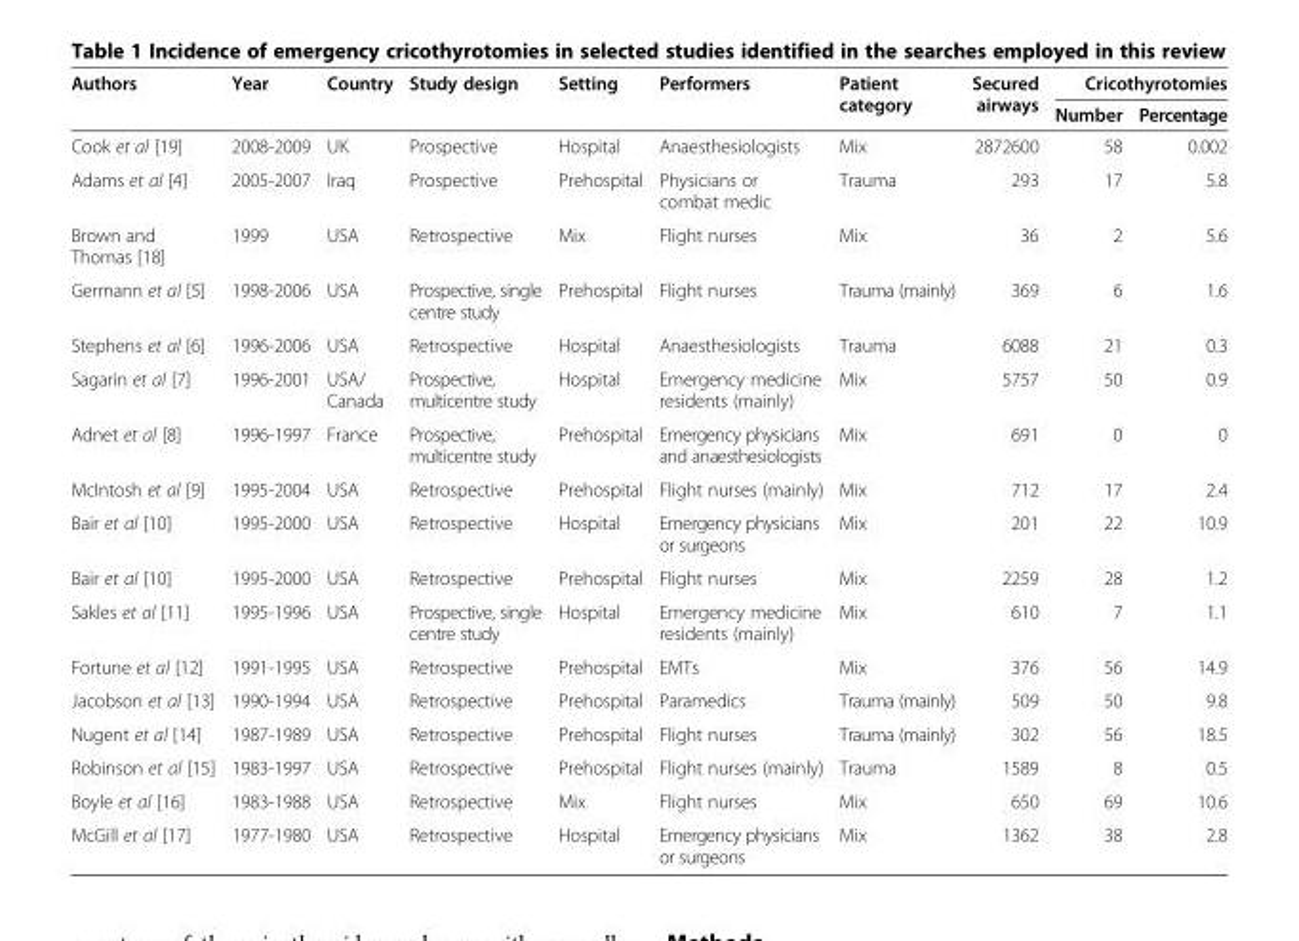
<table><thead><tr><td rowspan="2">Authors</td><td rowspan="2">Year</td><td rowspan="2">Country</td><td rowspan="2">Study design</td><td rowspan="2">Setting</td><td rowspan="2">Performers</td><td rowspan="2">Patient category</td><td rowspan="2">Secured airways</td><td colspan="2">Cricothyrotomies</td></tr><tr><td>Number</td><td>Percentage</td></tr></thead><tbody><tr><td>Cook et al [19]</td><td>2008-2009</td><td>UK</td><td>Prospective</td><td>Hospital</td><td>Anaesthesiologists</td><td>Mix</td><td>2872600</td><td>58</td><td>0.002</td></tr><tr><td>Adams et al [4]</td><td>2005-2007</td><td>Iraq</td><td>Prospective</td><td>Prehospital</td><td>Physicians or combat medic</td><td>Trauma</td><td>293</td><td>17</td><td>5.8</td></tr><tr><td>Brown and Thomas [18]</td><td>1999</td><td>USA</td><td>Retrospective</td><td>Mix</td><td>Flight nurses</td><td>Mix</td><td>36</td><td>2</td><td>5.6</td></tr><tr><td>Germann et al [5]</td><td>1998-2006</td><td>USA</td><td>Prospective, single centre study</td><td>Prehospital</td><td>Flight nurses</td><td>Trauma (mainly)</td><td>369</td><td>6</td><td>1.6</td></tr><tr><td>Stephens et al [6]</td><td>1996-2006</td><td>USA</td><td>Retrospective</td><td>Hospital</td><td>Anaesthesiologists</td><td>Trauma</td><td>6088</td><td>21</td><td>0.3</td></tr><tr><td>Sagarin et al [7]</td><td>1996-2001</td><td>USA/ Canada</td><td>Prospective, multicentre study</td><td>Hospital</td><td>Emergency medicine residents (mainly)</td><td>Mix</td><td>5757</td><td>50</td><td>0.9</td></tr><tr><td>Adnet et al [8]</td><td>1996-1997</td><td>France</td><td>Prospective, multicentre study</td><td>Prehospital</td><td>Emergency physicians and anaesthesiologists</td><td>Mix</td><td>691</td><td>0</td><td>0</td></tr><tr><td>McIntosh et al [9]</td><td>1995-2004</td><td>USA</td><td>Retrospective</td><td>Prehospital</td><td>Flight nurses (mainly)</td><td>Mix</td><td>712</td><td>17</td><td>2.4</td></tr><tr><td>Bair et al [10]</td><td>1995-2000</td><td>USA</td><td>Retrospective</td><td>Hospital</td><td>Emergency physicians or surgeons</td><td>Mix</td><td>201</td><td>22</td><td>10.9</td></tr><tr><td>Bair et al [10]</td><td>1995-2000</td><td>USA</td><td>Retrospective</td><td>Prehospital</td><td>Flight nurses</td><td>Mix</td><td>2259</td><td>28</td><td>1.2</td></tr><tr><td>Sakles et al [11]</td><td>1995-1996</td><td>USA</td><td>Prospective, single centre study</td><td>Hospital</td><td>Emergency medicine residents (mainly)</td><td>Mix</td><td>610</td><td>7</td><td>1.1</td></tr><tr><td>Fortune et al [12]</td><td>1991-1995</td><td>USA</td><td>Retrospective</td><td>Prehospital</td><td>EMTs</td><td>Mix</td><td>376</td><td>56</td><td>14.9</td></tr><tr><td>Jacobson et al [13]</td><td>1990-1994</td><td>USA</td><td>Retrospective</td><td>Prehospital</td><td>Paramedics</td><td>Trauma (mainly)</td><td>509</td><td>50</td><td>9.8</td></tr><tr><td>Nugent et al [14]</td><td>1987-1989</td><td>USA</td><td>Retrospective</td><td>Prehospital</td><td>Flight nurses</td><td>Trauma (mainly)</td><td>302</td><td>56</td><td>18.5</td></tr><tr><td>Robinson et al [15]</td><td>1983-1997</td><td>USA</td><td>Retrospective</td><td>Prehospital</td><td>Flight nurses (mainly)</td><td>Trauma</td><td>1589</td><td>8</td><td>0.5</td></tr><tr><td>Boyle et al [16]</td><td>1983-1988</td><td>USA</td><td>Retrospective</td><td>Mix</td><td>Flight nurses</td><td>Mix</td><td>650</td><td>69</td><td>10.6</td></tr><tr><td>McGill et al [17]</td><td>1977-1980</td><td>USA</td><td>Retrospective</td><td>Hospital</td><td>Emergency physicians or surgeons</td><td>Mix</td><td>1362</td><td>38</td><td>2.8</td></tr></tbody></table>